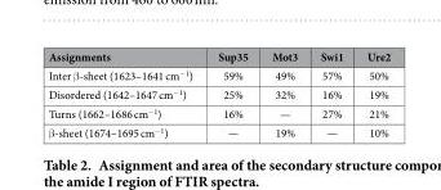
<table><thead><tr><td>Assignments</td><td>Sup35</td><td>Mot3</td><td>Swi1</td><td>Ure2</td></tr></thead><tbody><tr><td>Inter β -sheet (1623–1641 cm<sup>−1</sup>)</td><td>59%</td><td>49%</td><td>57%</td><td>50%</td></tr><tr><td>Disordered (1642–1647 cm<sup>−1</sup>)</td><td>25%</td><td>32%</td><td>16%</td><td>19%</td></tr><tr><td>Turns (1662–1686 cm<sup>−1</sup>)</td><td>16%</td><td>—</td><td>27%</td><td>21%</td></tr><tr><td>β -sheet (1674–1695 cm<sup>−1</sup>)</td><td>—</td><td>19%</td><td>—</td><td>10%</td></tr></tbody></table>